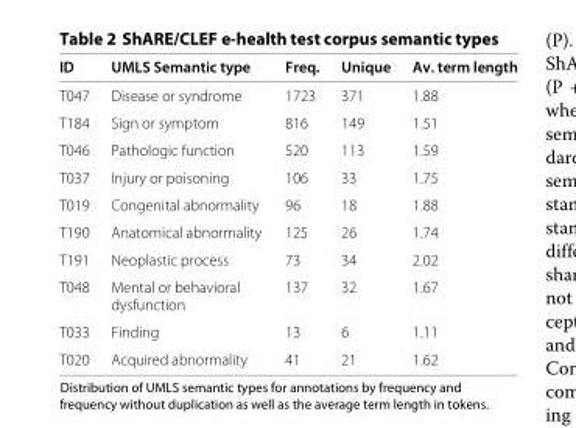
<table><thead><tr><td>ID</td><td>UMLS Semantic type</td><td>Freq.</td><td>Unique</td><td>Av. term length</td></tr></thead><tbody><tr><td>T047</td><td>Disease or syndrome</td><td>1723</td><td>371</td><td>1.88</td></tr><tr><td>T184</td><td>Sign or symptom</td><td>816</td><td>149</td><td>1.51</td></tr><tr><td>T046</td><td>Pathologic function</td><td>520</td><td>113</td><td>1.59</td></tr><tr><td>T037</td><td>Injury or poisoning</td><td>106</td><td>33</td><td>1.75</td></tr><tr><td>T019</td><td>Congenital abnormality</td><td>96</td><td>18</td><td>1.88</td></tr><tr><td>T190</td><td>Anatomical abnormality</td><td>125</td><td>26</td><td>1.74</td></tr><tr><td>T191</td><td>Neoplastic process</td><td>73</td><td>34</td><td>2.02</td></tr><tr><td>T048</td><td>Mental or behavioral dysfunction</td><td>137</td><td>32</td><td>1.67</td></tr><tr><td>T033</td><td>Finding</td><td>13</td><td>6</td><td>1.11</td></tr><tr><td>T020</td><td>Acquired abnormality</td><td>41</td><td>21</td><td>1.62</td></tr></tbody></table>